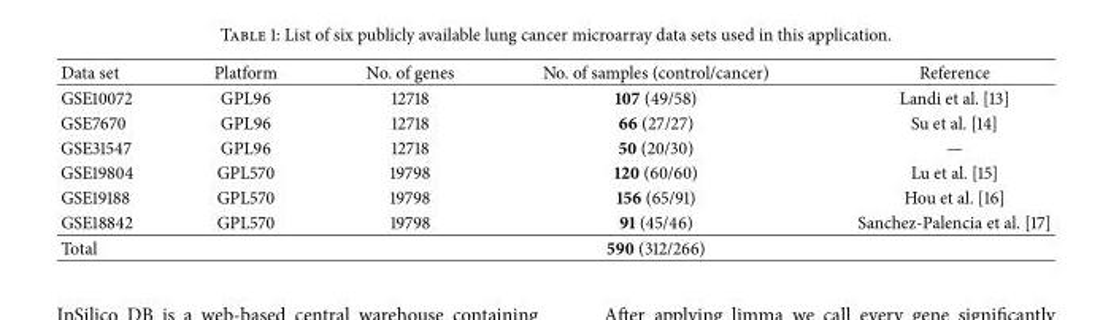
<table><thead><tr><td>Data set</td><td>Platform</td><td>No. of genes</td><td>No. of samples (control/cancer)</td><td>Reference</td></tr></thead><tbody><tr><td>GSE10072</td><td>GPL96</td><td>12718</td><td>107 (49/58)</td><td>Landi et al. [13]</td></tr><tr><td>GSE7670</td><td>GPL96</td><td>12718</td><td>66 (27/27)</td><td>Su et al. [14]</td></tr><tr><td>GSE31547</td><td>GPL96</td><td>12718</td><td>50 (20/30)</td><td>—</td></tr><tr><td>GSE19804</td><td>GPL570</td><td>19798</td><td>120 (60/60)</td><td>Lu et al. [15]</td></tr><tr><td>GSE19188</td><td>GPL570</td><td>19798</td><td>156 (65/91)</td><td>Hou et al. [16]</td></tr><tr><td>GSE18842</td><td>GPL570</td><td>19798</td><td>91 (45/46)</td><td>Sanchez-Palencia et al. [17]</td></tr><tr><td>Total</td><td></td><td></td><td>590 (312/266)</td><td></td></tr></tbody></table>